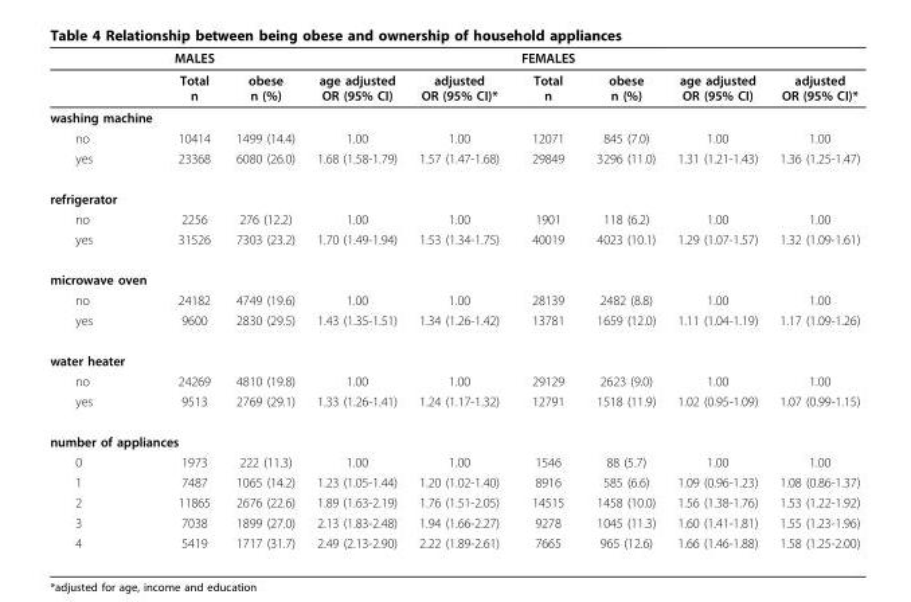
<table><thead><tr><td></td><td>MALES</td><td></td><td></td><td></td><td>FEMALES</td><td></td><td></td><td></td></tr></thead><tbody><tr><td></td><td>Total n</td><td>obese n (%)</td><td>age adjusted OR (95% CI)</td><td>adjusted OR (95% CI)*</td><td>Total n</td><td>obese n (%)</td><td>age adjusted OR (95% CI)</td><td>adjusted OR (95% CI)*</td></tr><tr><td colspan="9">washing machine</td></tr><tr><td>no</td><td>10414</td><td>1499 (14.4)</td><td>1.00</td><td>1.00</td><td>12071</td><td>845 (7.0)</td><td>1.00</td><td>1.00</td></tr><tr><td>yes</td><td>23368</td><td>6080 (26.0)</td><td>1.68 (1.58-1.79)</td><td>1.57 (1.47-1.68)</td><td>29849</td><td>3296 (11.0)</td><td>1.31 (1.21-1.43)</td><td>1.36 (1.25-1.47)</td></tr><tr><td colspan="9">refrigerator</td></tr><tr><td>no</td><td>2256</td><td>276 (12.2)</td><td>1.00</td><td>1.00</td><td>1901</td><td>118 (6.2)</td><td>1.00</td><td>1.00</td></tr><tr><td>yes</td><td>31526</td><td>7303 (23.2)</td><td>1.70 (1.49-1.94)</td><td>1.53 (1.34-1.75)</td><td>40019</td><td>4023 (10.1)</td><td>1.29 (1.07-1.57)</td><td>1.32 (1.09-1.61)</td></tr><tr><td colspan="9">microwave oven</td></tr><tr><td>no</td><td>24182</td><td>4749 (19.6)</td><td>1.00</td><td>1.00</td><td>28139</td><td>2482 (8.8)</td><td>1.00</td><td>1.00</td></tr><tr><td>yes</td><td>9600</td><td>2830 (29.5)</td><td>1.43 (1.35-1.51)</td><td>1.34 (1.26-1.42)</td><td>13781</td><td>1659 (12.0)</td><td>1.11 (1.04-1.19)</td><td>1.17 (1.09-1.26)</td></tr><tr><td colspan="9">water heater</td></tr><tr><td>no</td><td>24269</td><td>4810 (19.8)</td><td>1.00</td><td>1.00</td><td>29129</td><td>2623 (9.0)</td><td>1.00</td><td>1.00</td></tr><tr><td>yes</td><td>9513</td><td>2769 (29.1)</td><td>1.33 (1.26-1.41)</td><td>1.24 (1.17-1.32)</td><td>12791</td><td>1518 (11.9)</td><td>1.02 (0.95-1.09)</td><td>1.07 (0.99-1.15)</td></tr><tr><td colspan="9">number of appliances</td></tr><tr><td>0</td><td>1973</td><td>222 (11.3)</td><td>1.00</td><td>1.00</td><td>1546</td><td>88 (5.7)</td><td>1.00</td><td>1.00</td></tr><tr><td>1</td><td>7487</td><td>1065 (14.2)</td><td>1.23 (1.05-1.44)</td><td>1.20 (1.02-1.40)</td><td>8916</td><td>585 (6.6)</td><td>1.09 (0.96-1.23)</td><td>1.08 (0.86-1.37)</td></tr><tr><td>2</td><td>11865</td><td>2676 (22.6)</td><td>1.89 (1.63-2.19)</td><td>1.76 (1.51-2.05)</td><td>14515</td><td>1458 (10.0)</td><td>1.56 (1.38-1.76)</td><td>1.53 (1.22-1.92)</td></tr><tr><td>3</td><td>7038</td><td>1899 (27.0)</td><td>2.13 (1.83-2.48)</td><td>1.94 (1.66-2.27)</td><td>9278</td><td>1045 (11.3)</td><td>1.60 (1.41-1.81)</td><td>1.55 (1.23-1.96)</td></tr><tr><td>4</td><td>5419</td><td>1717 (31.7)</td><td>2.49 (2.13-2.90)</td><td>2.22 (1.89-2.61)</td><td>7665</td><td>965 (12.6)</td><td>1.66 (1.46-1.88)</td><td>1.58 (1.25-2.00)</td></tr></tbody></table>